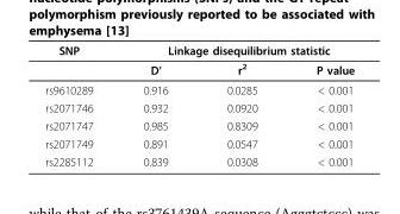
<table><thead><tr><td rowspan="2">SNP</td><td colspan="3">Linkage disequilibrium statistic</td></tr><tr><td>D’</td><td>r<sup>2</sup></td><td>P value</td></tr></thead><tbody><tr><td>rs9610289</td><td>0.916</td><td>0.0285</td><td>&lt; 0.001</td></tr><tr><td>rs2071746</td><td>0.932</td><td>0.0920</td><td>&lt; 0.001</td></tr><tr><td>rs2071747</td><td>0.985</td><td>0.8309</td><td>&lt; 0.001</td></tr><tr><td>rs2071749</td><td>0.891</td><td>0.0547</td><td>&lt; 0.001</td></tr><tr><td>rs2285112</td><td>0.839</td><td>0.0308</td><td>&lt; 0.001</td></tr></tbody></table>